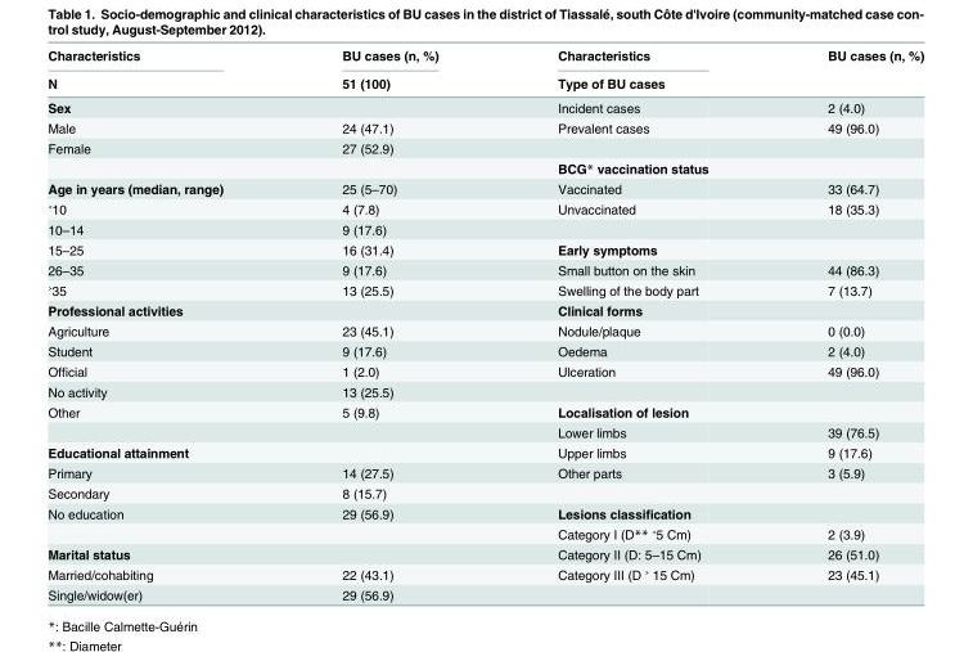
<table><thead><tr><td rowspan="2">Characteristics N</td><td rowspan="2">BU cases (n, %) 51 (100)</td><td rowspan="2">Characteristics Type of BU cases</td><td rowspan="2">BU cases (n, %)</td></tr><tr></tr></thead><tbody><tr><td>Sex</td><td></td><td>Incident cases</td><td>2 (4.0)</td></tr><tr><td>Male</td><td>24 (47.1)</td><td>Prevalent cases</td><td>49 (96.0)</td></tr><tr><td rowspan="2">Female</td><td>27 (52.9)</td><td></td><td></td></tr><tr><td></td><td>BCG* vaccination status</td><td></td></tr><tr><td>Age in years (median, range)</td><td>25 (5–70)</td><td>Vaccinated</td><td>33 (64.7)</td></tr><tr><td>˂10</td><td>4 (7.8)</td><td>Unvaccinated</td><td>18 (35.3)</td></tr><tr><td>10–14</td><td>9 (17.6)</td><td></td><td></td></tr><tr><td>15–25</td><td>16 (31.4)</td><td>Early symptoms</td><td></td></tr><tr><td>26–35</td><td>9 (17.6)</td><td>Small button on the skin</td><td>44 (86.3)</td></tr><tr><td>˃35</td><td>13 (25.5)</td><td>Swelling of the body part</td><td>7 (13.7)</td></tr><tr><td>Professional activities</td><td></td><td>Clinical forms</td><td></td></tr><tr><td>Agriculture</td><td>23 (45.1)</td><td>Nodule/plaque</td><td>0 (0.0)</td></tr><tr><td>Student</td><td>9 (17.6)</td><td>Oedema</td><td>2 (4.0)</td></tr><tr><td>Official</td><td>1 (2.0)</td><td>Ulceration</td><td>49 (96.0)</td></tr><tr><td>No activity</td><td>13 (25.5)</td><td></td><td></td></tr><tr><td rowspan="2">Other</td><td>5 (9.8)</td><td>Localisation of lesion</td><td></td></tr><tr><td></td><td>Lower limbs</td><td>39 (76.5)</td></tr><tr><td>Educational attainment</td><td></td><td>Upper limbs</td><td>9 (17.6)</td></tr><tr><td>Primary</td><td>14 (27.5)</td><td>Other parts</td><td>3 (5.9)</td></tr><tr><td>Secondary</td><td>8 (15.7)</td><td></td><td></td></tr><tr><td rowspan="2">No education</td><td>29 (56.9)</td><td>Lesions classification</td><td></td></tr><tr><td></td><td>Category I (D** ˂5 Cm)</td><td>2 (3.9)</td></tr><tr><td>Marital status</td><td></td><td>Category II (D: 5–15 Cm)</td><td>26 (51.0)</td></tr><tr><td>Married/cohabiting</td><td>22 (43.1)</td><td>Category III (D ˃ 15 Cm)</td><td>23 (45.1)</td></tr><tr><td>Single/widow(er)</td><td>29 (56.9)</td><td></td><td></td></tr></tbody></table>